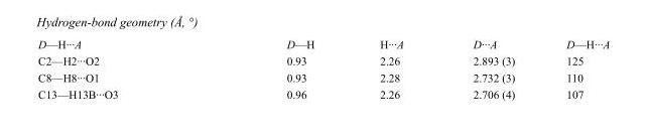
<table><tbody><tr><td>D—H···A</td><td>D—H</td><td>H···A</td><td>D···A</td><td>D—H···A</td></tr><tr><td>C2—H2···O2</td><td>0.93</td><td>2.26</td><td>2.893 (3)</td><td>125</td></tr><tr><td>C8—H8···O1</td><td>0.93</td><td>2.28</td><td>2.732 (3)</td><td>110</td></tr><tr><td>C13—H13B···O3</td><td>0.96</td><td>2.26</td><td>2.706 (4)</td><td>107</td></tr></tbody></table>